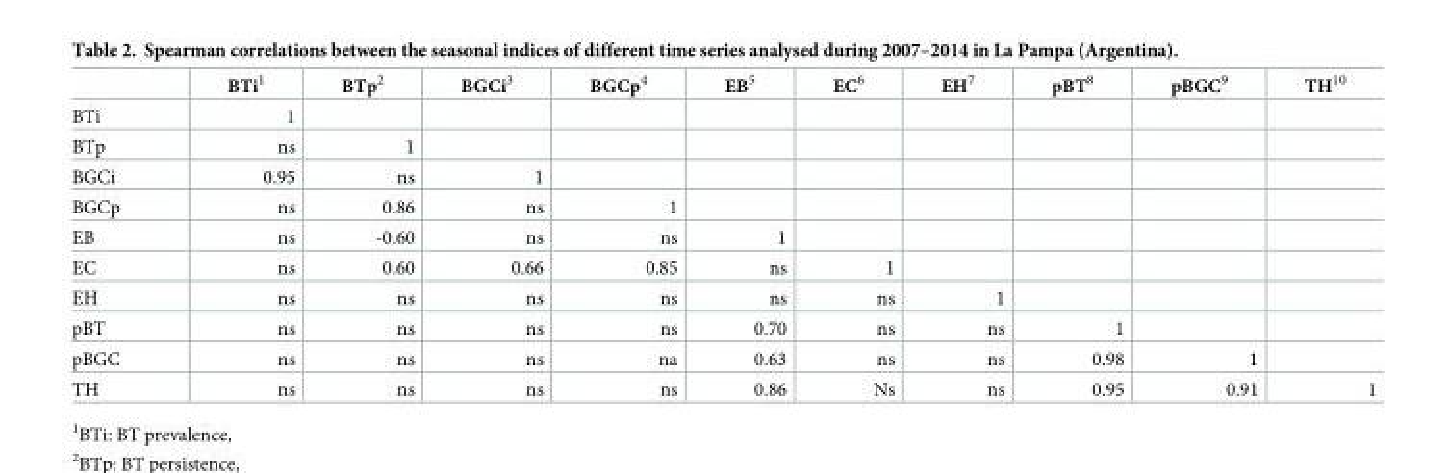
<table><thead><tr><td></td><td>BTi<sup>1</sup></td><td>BTp<sup>2</sup></td><td>BGCi<sup>3</sup></td><td>BGCp<sup>4</sup></td><td>EB<sup>5</sup></td><td>EC<sup>6</sup></td><td>EH<sup>7</sup></td><td>pBT<sup>8</sup></td><td>pBGC<sup>9</sup></td><td>TH<sup>10</sup></td></tr></thead><tbody><tr><td>BTi</td><td>1</td><td></td><td></td><td></td><td></td><td></td><td></td><td></td><td></td><td></td></tr><tr><td>BTp</td><td>ns</td><td>1</td><td></td><td></td><td></td><td></td><td></td><td></td><td></td><td></td></tr><tr><td>BGCi</td><td>0.95</td><td>ns</td><td>1</td><td></td><td></td><td></td><td></td><td></td><td></td><td></td></tr><tr><td>BGCp</td><td>ns</td><td>0.86</td><td>ns</td><td>1</td><td></td><td></td><td></td><td></td><td></td><td></td></tr><tr><td>EB</td><td>ns</td><td>-0.60</td><td>ns</td><td>ns</td><td>1</td><td></td><td></td><td></td><td></td><td></td></tr><tr><td>EC</td><td>ns</td><td>0.60</td><td>0.66</td><td>0.85</td><td>ns</td><td>1</td><td></td><td></td><td></td><td></td></tr><tr><td>EH</td><td>ns</td><td>ns</td><td>ns</td><td>ns</td><td>ns</td><td>ns</td><td>1</td><td></td><td></td><td></td></tr><tr><td>pBT</td><td>ns</td><td>ns</td><td>ns</td><td>ns</td><td>0.70</td><td>ns</td><td>ns</td><td>1</td><td></td><td></td></tr><tr><td>pBGC</td><td>ns</td><td>ns</td><td>ns</td><td>na</td><td>0.63</td><td>ns</td><td>ns</td><td>0.98</td><td>1</td><td></td></tr><tr><td>TH</td><td>ns</td><td>ns</td><td>ns</td><td>ns</td><td>0.86</td><td>Ns</td><td>ns</td><td>0.95</td><td>0.91</td><td>1</td></tr></tbody></table>